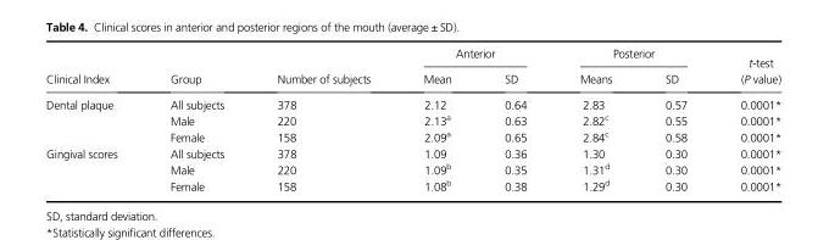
<table><thead><tr><td rowspan="2">Clinical Index</td><td rowspan="2">Group</td><td rowspan="2">Number of subjects</td><td colspan="2">Anterior</td><td colspan="2">Posterior</td><td rowspan="2">t-test (P value)</td></tr><tr><td>Mean</td><td>SD</td><td>Means</td><td>SD</td></tr></thead><tbody><tr><td rowspan="3">Dental plaque</td><td>All subjects</td><td>378</td><td>2.12</td><td>0.64</td><td>2.83</td><td>0.57</td><td>0.0001*</td></tr><tr><td>Male</td><td>220</td><td>2.13<sup>a</sup></td><td>0.63</td><td>2.82<sup>c</sup></td><td>0.55</td><td>0.0001*</td></tr><tr><td>Female</td><td>158</td><td>2.09<sup>a</sup></td><td>0.65</td><td>2.84<sup>c</sup></td><td>0.58</td><td>0.0001*</td></tr><tr><td rowspan="3">Gingival scores</td><td>All subjects</td><td>378</td><td>1.09</td><td>0.36</td><td>1.30</td><td>0.30</td><td>0.0001*</td></tr><tr><td>Male</td><td>220</td><td>1.09<sup>b</sup></td><td>0.35</td><td>1.31<sup>d</sup></td><td>0.30</td><td>0.0001*</td></tr><tr><td>Female</td><td>158</td><td>1.08<sup>b</sup></td><td>0.38</td><td>1.29<sup>d</sup></td><td>0.30</td><td>0.0001*</td></tr></tbody></table>